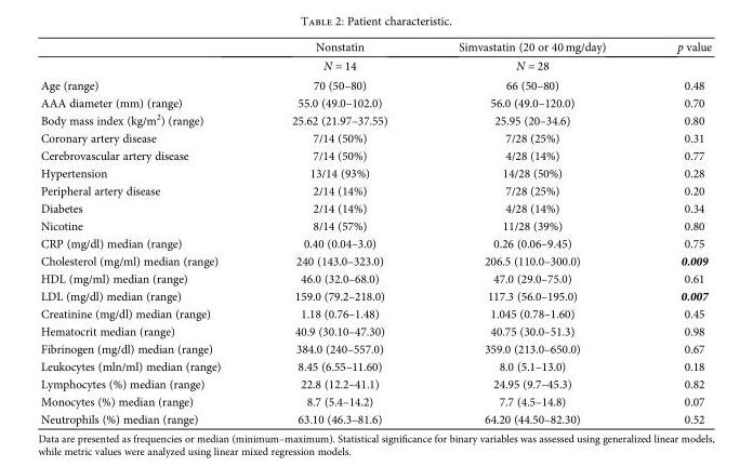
<table><thead><tr><td></td><td>Nonstatin</td><td>Simvastatin (20 or 40 mg/day)</td><td>p value</td></tr></thead><tbody><tr><td></td><td>N = 14</td><td>N = 28</td><td></td></tr><tr><td>Age (range)</td><td>70 (50–80)</td><td>66 (50–80)</td><td>0.48</td></tr><tr><td>AAA diameter (mm) (range)</td><td>55.0 (49.0–102.0)</td><td>56.0 (49.0–120.0)</td><td>0.70</td></tr><tr><td>Body mass index (kg/m<sup>2</sup>) (range)</td><td>25.62 (21.97–37.55)</td><td>25.95 (20–34.6)</td><td>0.80</td></tr><tr><td>Coronary artery disease</td><td>7/14 (50%)</td><td>7/28 (25%)</td><td>0.31</td></tr><tr><td>Cerebrovascular artery disease</td><td>7/14 (50%)</td><td>4/28 (14%)</td><td>0.77</td></tr><tr><td>Hypertension</td><td>13/14 (93%)</td><td>14/28 (50%)</td><td>0.28</td></tr><tr><td>Peripheral artery disease</td><td>2/14 (14%)</td><td>7/28 (25%)</td><td>0.20</td></tr><tr><td>Diabetes</td><td>2/14 (14%)</td><td>4/28 (14%)</td><td>0.34</td></tr><tr><td>Nicotine</td><td>8/14 (57%)</td><td>11/28 (39%)</td><td>0.80</td></tr><tr><td>CRP (mg/dl) median (range)</td><td>0.40 (0.04–3.0)</td><td>0.26 (0.06–9.45)</td><td>0.75</td></tr><tr><td>Cholesterol (mg/ml) median (range)</td><td>240 (143.0–323.0)</td><td>206.5 (110.0–300.0)</td><td>0.009</td></tr><tr><td>HDL (mg/ml) median (range)</td><td>46.0 (32.0–68.0)</td><td>47.0 (29.0–75.0)</td><td>0.61</td></tr><tr><td>LDL (mg/dl) median (range)</td><td>159.0 (79.2–218.0)</td><td>117.3 (56.0–195.0)</td><td>0.007</td></tr><tr><td>Creatinine (mg/dl) median (range)</td><td>1.18 (0.76–1.48)</td><td>1.045 (0.78–1.60)</td><td>0.45</td></tr><tr><td>Hematocrit median (range)</td><td>40.9 (30.10–47.30)</td><td>40.75 (30.0–51.3)</td><td>0.98</td></tr><tr><td>Fibrinogen (mg/dl) median (range)</td><td>384.0 (240–557.0)</td><td>359.0 (213.0–650.0)</td><td>0.67</td></tr><tr><td>Leukocytes (mln/ml) median (range)</td><td>8.45 (6.55–11.60)</td><td>8.0 (5.1–13.0)</td><td>0.18</td></tr><tr><td>Lymphocytes (%) median (range)</td><td>22.8 (12.2–41.1)</td><td>24.95 (9.7–45.3)</td><td>0.82</td></tr><tr><td>Monocytes (%) median (range)</td><td>8.7 (5.4–14.2)</td><td>7.7 (4.5–14.8)</td><td>0.07</td></tr><tr><td>Neutrophils (%) median (range)</td><td>63.10 (46.3–81.6)</td><td>64.20 (44.50–82.30)</td><td>0.52</td></tr></tbody></table>